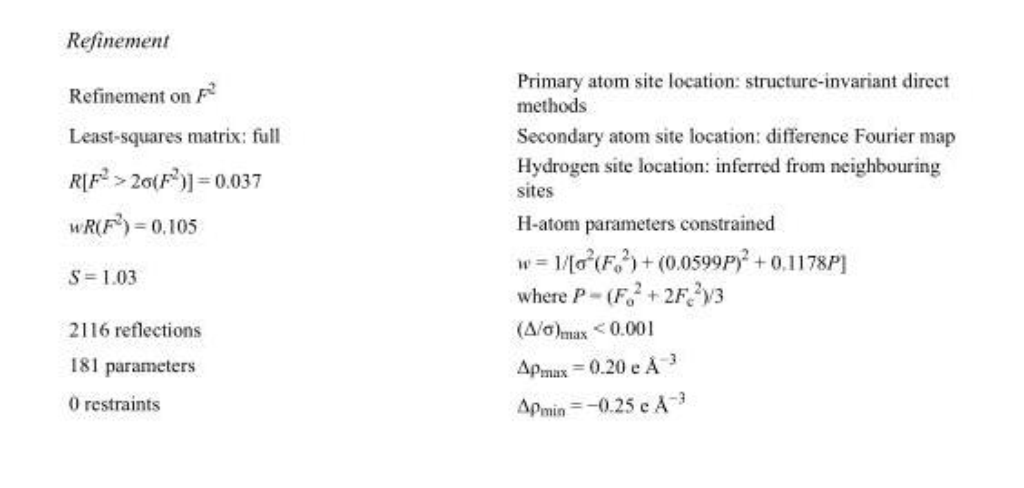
<table><tbody><tr><td>Refinement on F<sup>2</sup></td><td>Primary atom site location: structure-invariant direct methods</td></tr><tr><td>Least-squares matrix: full</td><td>Secondary atom site location: difference Fourier map</td></tr><tr><td>R[F<sup>2</sup> &gt; 2σ(F<sup>2</sup>)] = 0.037</td><td>Hydrogen site location: inferred from neighbouring sites</td></tr><tr><td>wR(F<sup>2</sup>) = 0.105</td><td>H-atom parameters constrained</td></tr><tr><td>S = 1.03</td><td>w = 1/[σ<sup>2</sup>(F<sub>o</sub> <sup>2</sup>) + (0.0599P)<sup>2</sup> + 0.1178P] where P = (F<sub>o</sub> <sup>2</sup> + 2F<sub>c</sub> <sup>2</sup>)/3</td></tr><tr><td>2116 reflections</td><td>(Δ/σ)<sub>max</sub> &lt; 0.001</td></tr><tr><td>181 parameters</td><td>Δρ<sub>max</sub> = 0.20 e Å<sup>−3</sup></td></tr><tr><td>0 restraints</td><td>Δρ<sub>min</sub> = −0.25 e Å<sup>−3</sup></td></tr></tbody></table>